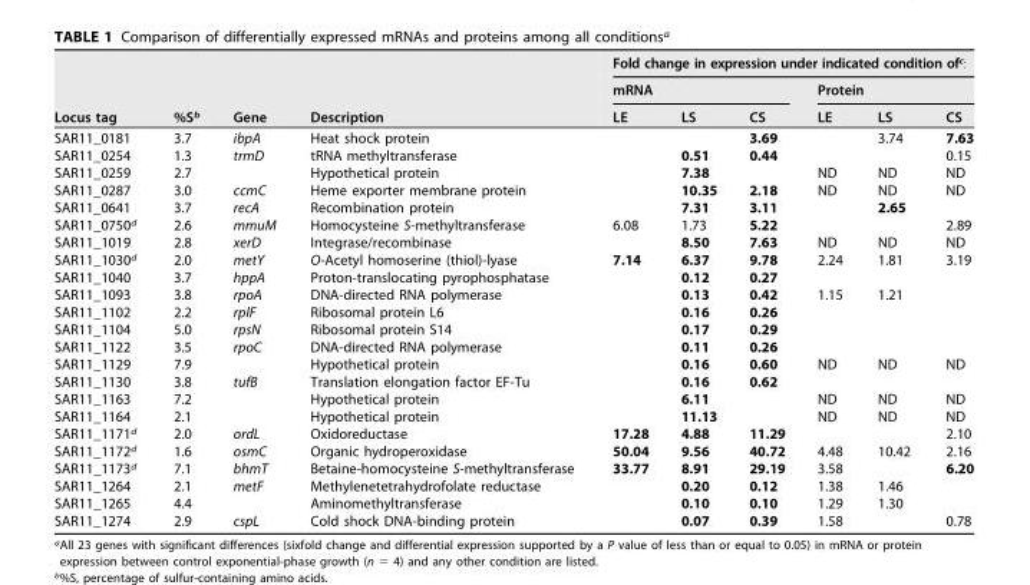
<table><thead><tr><td rowspan="3">Locus tag</td><td rowspan="3">%S<sup>b</sup></td><td rowspan="3">Gene</td><td rowspan="3">Description</td><td colspan="6">Fold change in expression under indicated condition of<sup>c</sup>:</td></tr><tr><td colspan="3">mRNA</td><td colspan="3">Protein</td></tr><tr><td>LE</td><td>LS</td><td>CS</td><td>LE</td><td>LS</td><td>CS</td></tr></thead><tbody><tr><td>SAR11_0181</td><td>3.7</td><td>ibpA</td><td>Heat shock protein</td><td></td><td></td><td>3.69</td><td></td><td>3.74</td><td>7.63</td></tr><tr><td>SAR11_0254</td><td>1.3</td><td>trmD</td><td>tRNA methyltransferase</td><td></td><td>0.51</td><td>0.44</td><td></td><td></td><td>0.15</td></tr><tr><td>SAR11_0259</td><td>2.7</td><td></td><td>Hypothetical protein</td><td></td><td>7.38</td><td></td><td>ND</td><td>ND</td><td>ND</td></tr><tr><td>SAR11_0287</td><td>3.0</td><td>ccmC</td><td>Heme exporter membrane protein</td><td></td><td>10.35</td><td>2.18</td><td>ND</td><td>ND</td><td>ND</td></tr><tr><td>SAR11_0641</td><td>3.7</td><td>recA</td><td>Recombination protein</td><td></td><td>7.31</td><td>3.11</td><td></td><td>2.65</td><td></td></tr><tr><td>SAR11_0750<sup>d</sup></td><td>2.6</td><td>mmuM</td><td>Homocysteine S-methyltransferase</td><td>6.08</td><td>1.73</td><td>5.22</td><td></td><td></td><td>2.89</td></tr><tr><td>SAR11_1019</td><td>2.8</td><td>xerD</td><td>Integrase/recombinase</td><td></td><td>8.50</td><td>7.63</td><td>ND</td><td>ND</td><td>ND</td></tr><tr><td>SAR11_1030<sup>d</sup></td><td>2.0</td><td>metY</td><td>O-Acetyl homoserine (thiol)-lyase</td><td>7.14</td><td>6.37</td><td>9.78</td><td>2.24</td><td>1.81</td><td>3.19</td></tr><tr><td>SAR11_1040</td><td>3.7</td><td>hppA</td><td>Proton-translocating pyrophosphatase</td><td></td><td>0.12</td><td>0.27</td><td></td><td></td><td></td></tr><tr><td>SAR11_1093</td><td>3.8</td><td>rpoA</td><td>DNA-directed RNA polymerase</td><td></td><td>0.13</td><td>0.42</td><td>1.15</td><td>1.21</td><td></td></tr><tr><td>SAR11_1102</td><td>2.2</td><td>rplF</td><td>Ribosomal protein L6</td><td></td><td>0.16</td><td>0.26</td><td></td><td></td><td></td></tr><tr><td>SAR11_1104</td><td>5.0</td><td>rpsN</td><td>Ribosomal protein S14</td><td></td><td>0.17</td><td>0.29</td><td></td><td></td><td></td></tr><tr><td>SAR11_1122</td><td>3.5</td><td>rpoC</td><td>DNA-directed RNA polymerase</td><td></td><td>0.11</td><td>0.26</td><td></td><td></td><td></td></tr><tr><td>SAR11_1129</td><td>7.9</td><td></td><td>Hypothetical protein</td><td></td><td>0.16</td><td>0.60</td><td>ND</td><td>ND</td><td>ND</td></tr><tr><td>SAR11_1130</td><td>3.8</td><td>tufB</td><td>Translation elongation factor EF-Tu</td><td></td><td>0.16</td><td>0.62</td><td></td><td></td><td></td></tr><tr><td>SAR11_1163</td><td>7.2</td><td></td><td>Hypothetical protein</td><td></td><td>6.11</td><td></td><td>ND</td><td>ND</td><td>ND</td></tr><tr><td>SAR11_1164</td><td>2.1</td><td></td><td>Hypothetical protein</td><td></td><td>11.13</td><td></td><td>ND</td><td>ND</td><td>ND</td></tr><tr><td>SAR11_1171<sup>d</sup></td><td>2.0</td><td>ordL</td><td>Oxidoreductase</td><td>17.28</td><td>4.88</td><td>11.29</td><td></td><td></td><td>2.10</td></tr><tr><td>SAR11_1172<sup>d</sup></td><td>1.6</td><td>osmC</td><td>Organic hydroperoxidase</td><td>50.04</td><td>9.56</td><td>40.72</td><td>4.48</td><td>10.42</td><td>2.16</td></tr><tr><td>SAR11_1173<sup>d</sup></td><td>7.1</td><td>bhmT</td><td>Betaine-homocysteine S-methyltransferase</td><td>33.77</td><td>8.91</td><td>29.19</td><td>3.58</td><td></td><td>6.20</td></tr><tr><td>SAR11_1264</td><td>2.1</td><td>metF</td><td>Methylenetetrahydrofolate reductase</td><td></td><td>0.20</td><td>0.12</td><td>1.38</td><td>1.46</td><td></td></tr><tr><td>SAR11_1265</td><td>4.4</td><td></td><td>Aminomethyltransferase</td><td></td><td>0.10</td><td>0.10</td><td>1.29</td><td>1.30</td><td></td></tr><tr><td>SAR11_1274</td><td>2.9</td><td>cspL</td><td>Cold shock DNA-binding protein</td><td></td><td>0.07</td><td>0.39</td><td>1.58</td><td></td><td>0.78</td></tr></tbody></table>